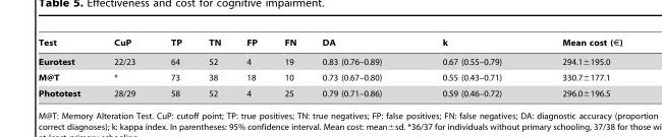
<table><thead><tr><td>Test</td><td>CuP</td><td>TP</td><td>TN</td><td>FP</td><td>FN</td><td>DA</td><td>k</td><td>Mean cost (€)</td></tr></thead><tbody><tr><td>Eurotest</td><td>22/23</td><td>64</td><td>52</td><td>4</td><td>19</td><td>0.83 (0.76–0.89)</td><td>0.67 (0.55–0.79)</td><td>294.1±195.0</td></tr><tr><td>M@T</td><td>*</td><td>73</td><td>38</td><td>18</td><td>10</td><td>0.73 (0.67–0.80)</td><td>0.55 (0.43–0.71)</td><td>330.7±177.1</td></tr><tr><td>Phototest</td><td>28/29</td><td>58</td><td>52</td><td>4</td><td>25</td><td>0.79 (0.71–0.86)</td><td>0.59 (0.46–0.72)</td><td>296.0±196.5</td></tr></tbody></table>